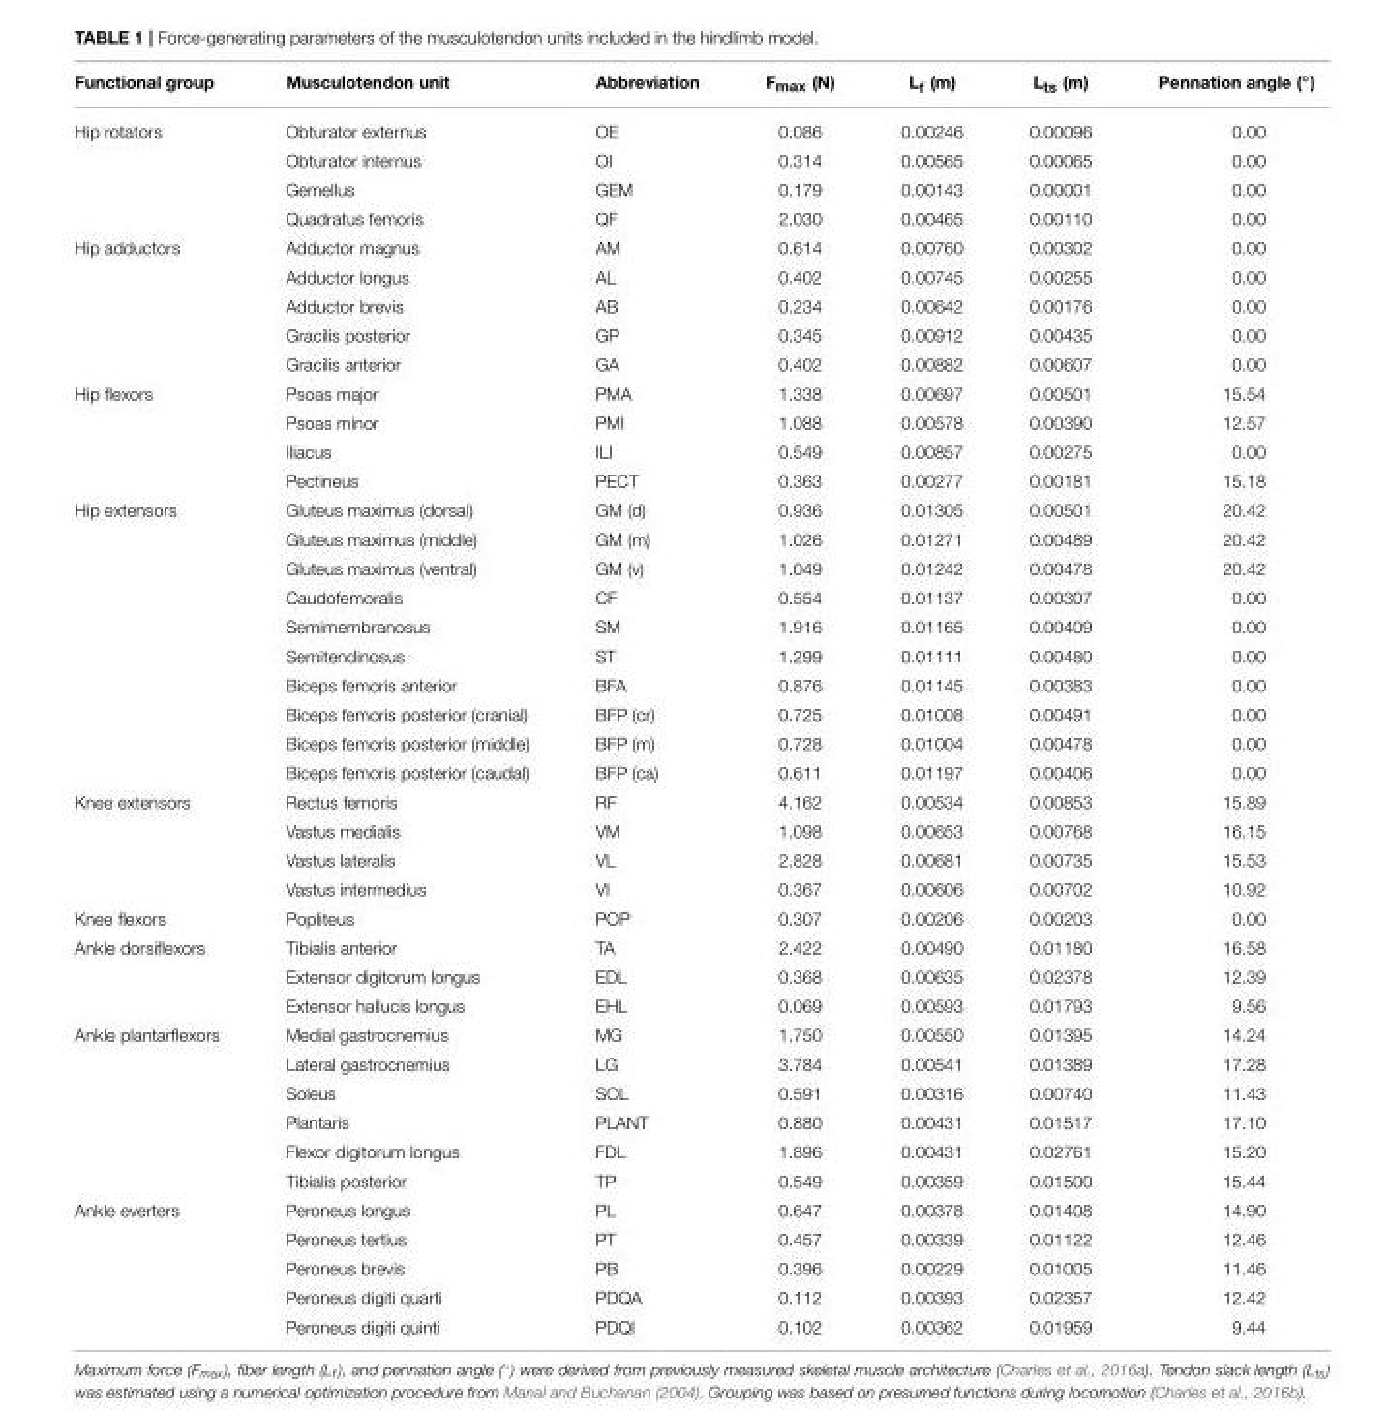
<table><thead><tr><td>Functional group</td><td>Musculotendon unit</td><td>Abbreviation</td><td>F<sub>max</sub> (N)</td><td>L<sub>f</sub> (m)</td><td>L<sub>ts</sub> (m)</td><td>Pennation angle (◦)</td></tr></thead><tbody><tr><td rowspan="4">Hip rotators</td><td>Obturator externus</td><td>OE</td><td>0.086</td><td>0.00246</td><td>0.00096</td><td>0.00</td></tr><tr><td>Obturator internus</td><td>OI</td><td>0.314</td><td>0.00565</td><td>0.00065</td><td>0.00</td></tr><tr><td>Gemellus</td><td>GEM</td><td>0.179</td><td>0.00143</td><td>0.00001</td><td>0.00</td></tr><tr><td>Quadratus femoris</td><td>QF</td><td>2.030</td><td>0.00465</td><td>0.00110</td><td>0.00</td></tr><tr><td rowspan="5">Hip adductors</td><td>Adductor magnus</td><td>AM</td><td>0.614</td><td>0.00760</td><td>0.00302</td><td>0.00</td></tr><tr><td>Adductor longus</td><td>AL</td><td>0.402</td><td>0.00745</td><td>0.00255</td><td>0.00</td></tr><tr><td>Adductor brevis</td><td>AB</td><td>0.234</td><td>0.00642</td><td>0.00176</td><td>0.00</td></tr><tr><td>Gracilis posterior</td><td>GP</td><td>0.345</td><td>0.00912</td><td>0.00435</td><td>0.00</td></tr><tr><td>Gracilis anterior</td><td>GA</td><td>0.402</td><td>0.00882</td><td>0.00607</td><td>0.00</td></tr><tr><td rowspan="4">Hip flexors</td><td>Psoas major</td><td>PMA</td><td>1.338</td><td>0.00697</td><td>0.00501</td><td>15.54</td></tr><tr><td>Psoas minor</td><td>PMI</td><td>1.088</td><td>0.00578</td><td>0.00390</td><td>12.57</td></tr><tr><td>Iliacus</td><td>ILI</td><td>0.549</td><td>0.00857</td><td>0.00275</td><td>0.00</td></tr><tr><td>Pectineus</td><td>PECT</td><td>0.363</td><td>0.00277</td><td>0.00181</td><td>15.18</td></tr><tr><td rowspan="10">Hip extensors</td><td>Gluteus maximus (dorsal)</td><td>GM (d)</td><td>0.936</td><td>0.01305</td><td>0.00501</td><td>20.42</td></tr><tr><td>Gluteus maximus (middle)</td><td>GM (m)</td><td>1.026</td><td>0.01271</td><td>0.00489</td><td>20.42</td></tr><tr><td>Gluteus maximus (ventral)</td><td>GM (v)</td><td>1.049</td><td>0.01242</td><td>0.00478</td><td>20.42</td></tr><tr><td>Caudofemoralis</td><td>CF</td><td>0.554</td><td>0.01137</td><td>0.00307</td><td>0.00</td></tr><tr><td>Semimembranosus</td><td>SM</td><td>1.916</td><td>0.01165</td><td>0.00409</td><td>0.00</td></tr><tr><td>Semitendinosus</td><td>ST</td><td>1.299</td><td>0.01111</td><td>0.00480</td><td>0.00</td></tr><tr><td>Biceps femoris anterior</td><td>BFA</td><td>0.876</td><td>0.01145</td><td>0.00383</td><td>0.00</td></tr><tr><td>Biceps femoris posterior (cranial)</td><td>BFP (cr)</td><td>0.725</td><td>0.01008</td><td>0.00491</td><td>0.00</td></tr><tr><td>Biceps femoris posterior (middle)</td><td>BFP (m)</td><td>0.728</td><td>0.01004</td><td>0.00478</td><td>0.00</td></tr><tr><td>Biceps femoris posterior (caudal)</td><td>BFP (ca)</td><td>0.611</td><td>0.01197</td><td>0.00406</td><td>0.00</td></tr><tr><td rowspan="4">Knee extensors</td><td>Rectus femoris</td><td>RF</td><td>4.162</td><td>0.00534</td><td>0.00853</td><td>15.89</td></tr><tr><td>Vastus medialis</td><td>VM</td><td>1.098</td><td>0.00653</td><td>0.00768</td><td>16.15</td></tr><tr><td>Vastus lateralis</td><td>VL</td><td>2.828</td><td>0.00681</td><td>0.00735</td><td>15.53</td></tr><tr><td>Vastus intermedius</td><td>VI</td><td>0.367</td><td>0.00606</td><td>0.00702</td><td>10.92</td></tr><tr><td>Knee flexors</td><td>Popliteus</td><td>POP</td><td>0.307</td><td>0.00206</td><td>0.00203</td><td>0.00</td></tr><tr><td rowspan="3">Ankle dorsiflexors</td><td>Tibialis anterior</td><td>TA</td><td>2.422</td><td>0.00490</td><td>0.01180</td><td>16.58</td></tr><tr><td>Extensor digitorum longus</td><td>EDL</td><td>0.368</td><td>0.00635</td><td>0.02378</td><td>12.39</td></tr><tr><td>Extensor hallucis longus</td><td>EHL</td><td>0.069</td><td>0.00593</td><td>0.01793</td><td>9.56</td></tr><tr><td rowspan="6">Ankle plantarflexors</td><td>Medial gastrocnemius</td><td>MG</td><td>1.750</td><td>0.00550</td><td>0.01395</td><td>14.24</td></tr><tr><td>Lateral gastrocnemius</td><td>LG</td><td>3.784</td><td>0.00541</td><td>0.01389</td><td>17.28</td></tr><tr><td>Soleus</td><td>SOL</td><td>0.591</td><td>0.00316</td><td>0.00740</td><td>11.43</td></tr><tr><td>Plantaris</td><td>PLANT</td><td>0.880</td><td>0.00431</td><td>0.01517</td><td>17.10</td></tr><tr><td>Flexor digitorum longus</td><td>FDL</td><td>1.896</td><td>0.00431</td><td>0.02761</td><td>15.20</td></tr><tr><td>Tibialis posterior</td><td>TP</td><td>0.549</td><td>0.00359</td><td>0.01500</td><td>15.44</td></tr><tr><td rowspan="5">Ankle everters</td><td>Peroneus longus</td><td>PL</td><td>0.647</td><td>0.00378</td><td>0.01408</td><td>14.90</td></tr><tr><td>Peroneus tertius</td><td>PT</td><td>0.457</td><td>0.00339</td><td>0.01122</td><td>12.46</td></tr><tr><td>Peroneus brevis</td><td>PB</td><td>0.396</td><td>0.00229</td><td>0.01005</td><td>11.46</td></tr><tr><td>Peroneus digiti quarti</td><td>PDQA</td><td>0.112</td><td>0.00393</td><td>0.02357</td><td>12.42</td></tr><tr><td>Peroneus digiti quinti</td><td>PDQI</td><td>0.102</td><td>0.00362</td><td>0.01959</td><td>9.44</td></tr></tbody></table>